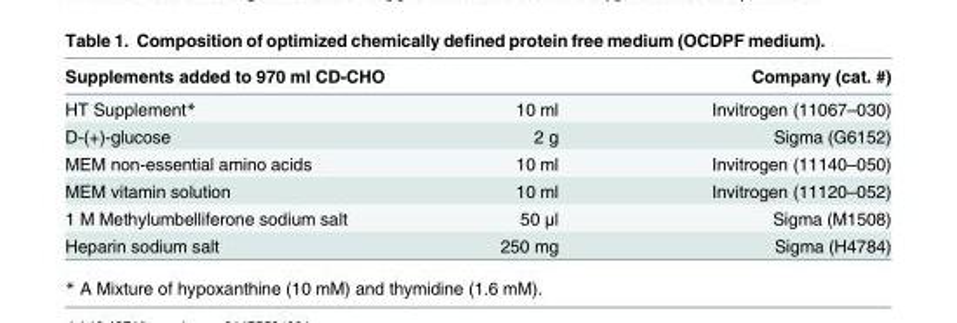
<table><thead><tr><td colspan="2">Supplements added to 970 ml CD-CHO</td><td rowspan="2">Company (cat. #) Invitrogen (11067–030)</td></tr><tr><td>HT Supplement*</td><td>10 ml</td></tr></thead><tbody><tr><td>D-(+)-glucose</td><td>2 g</td><td>Sigma (G6152)</td></tr><tr><td>MEM non-essential amino acids</td><td>10 ml</td><td>Invitrogen (11140–050)</td></tr><tr><td>MEM vitamin solution</td><td>10 ml</td><td>Invitrogen (11120–052)</td></tr><tr><td>1 M Methylumbelliferone sodium salt</td><td>50 μl</td><td>Sigma (M1508)</td></tr><tr><td>Heparin sodium salt</td><td>250 mg</td><td>Sigma (H4784)</td></tr></tbody></table>